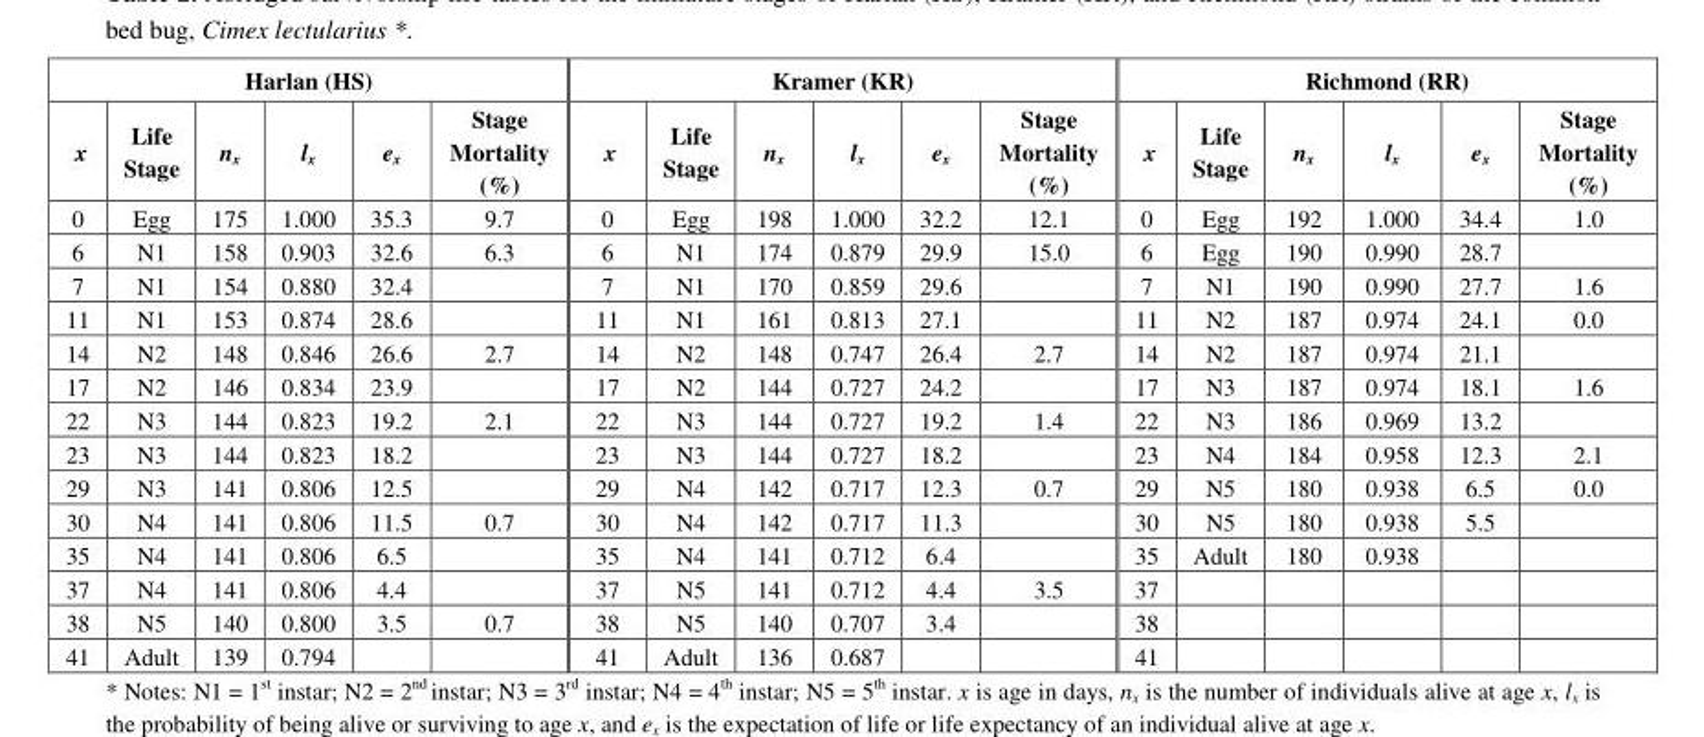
<table><thead><tr><td colspan="6">Harlan (HS)</td><td colspan="6">Kramer (KR)</td><td colspan="6">Richmond (RR)</td></tr><tr><td>x</td><td>Life Stage</td><td>n<sub>x</sub></td><td>l<sub>x</sub></td><td>e<sub>x</sub></td><td>Stage Mortality (%)</td><td>x</td><td>Life Stage</td><td>n<sub>x</sub></td><td>l<sub>x</sub></td><td>e<sub>x</sub></td><td>Stage Mortality (%)</td><td>x</td><td>Life Stage</td><td>n<sub>x</sub></td><td>l<sub>x</sub></td><td>e<sub>x</sub></td><td>Stage Mortality (%)</td></tr></thead><tbody><tr><td>0</td><td>Egg</td><td>175</td><td>1.000</td><td>35.3</td><td>9.7</td><td>0</td><td>Egg</td><td>198</td><td>1.000</td><td>32.2</td><td>12.1</td><td>0</td><td>Egg</td><td>192</td><td>1.000</td><td>34.4</td><td>1.0</td></tr><tr><td>6</td><td>N1</td><td>158</td><td>0.903</td><td>32.6</td><td>6.3</td><td>6</td><td>N1</td><td>174</td><td>0.879</td><td>29.9</td><td>15.0</td><td>6</td><td>Egg</td><td>190</td><td>0.990</td><td>28.7</td><td></td></tr><tr><td>7</td><td>N1</td><td>154</td><td>0.880</td><td>32.4</td><td></td><td>7</td><td>N1</td><td>170</td><td>0.859</td><td>29.6</td><td></td><td>7</td><td>N1</td><td>190</td><td>0.990</td><td>27.7</td><td>1.6</td></tr><tr><td>11</td><td>N1</td><td>153</td><td>0.874</td><td>28.6</td><td></td><td>11</td><td>N1</td><td>161</td><td>0.813</td><td>27.1</td><td></td><td>11</td><td>N2</td><td>187</td><td>0.974</td><td>24.1</td><td>0.0</td></tr><tr><td>14</td><td>N2</td><td>148</td><td>0.846</td><td>26.6</td><td>2.7</td><td>14</td><td>N2</td><td>148</td><td>0.747</td><td>26.4</td><td>2.7</td><td>14</td><td>N2</td><td>187</td><td>0.974</td><td>21.1</td><td></td></tr><tr><td>17</td><td>N2</td><td>146</td><td>0.834</td><td>23.9</td><td></td><td>17</td><td>N2</td><td>144</td><td>0.727</td><td>24.2</td><td></td><td>17</td><td>N3</td><td>187</td><td>0.974</td><td>18.1</td><td>1.6</td></tr><tr><td>22</td><td>N3</td><td>144</td><td>0.823</td><td>19.2</td><td>2.1</td><td>22</td><td>N3</td><td>144</td><td>0.727</td><td>19.2</td><td>1.4</td><td>22</td><td>N3</td><td>186</td><td>0.969</td><td>13.2</td><td></td></tr><tr><td>23</td><td>N3</td><td>144</td><td>0.823</td><td>18.2</td><td></td><td>23</td><td>N3</td><td>144</td><td>0.727</td><td>18.2</td><td></td><td>23</td><td>N4</td><td>184</td><td>0.958</td><td>12.3</td><td>2.1</td></tr><tr><td>29</td><td>N3</td><td>141</td><td>0.806</td><td>12.5</td><td></td><td>29</td><td>N4</td><td>142</td><td>0.717</td><td>12.3</td><td>0.7</td><td>29</td><td>N5</td><td>180</td><td>0.938</td><td>6.5</td><td>0.0</td></tr><tr><td>30</td><td>N4</td><td>141</td><td>0.806</td><td>11.5</td><td>0.7</td><td>30</td><td>N4</td><td>142</td><td>0.717</td><td>11.3</td><td></td><td>30</td><td>N5</td><td>180</td><td>0.938</td><td>5.5</td><td></td></tr><tr><td>35</td><td>N4</td><td>141</td><td>0.806</td><td>6.5</td><td></td><td>35</td><td>N4</td><td>141</td><td>0.712</td><td>6.4</td><td></td><td>35</td><td>Adult</td><td>180</td><td>0.938</td><td></td><td></td></tr><tr><td>37</td><td>N4</td><td>141</td><td>0.806</td><td>4.4</td><td></td><td>37</td><td>N5</td><td>141</td><td>0.712</td><td>4.4</td><td>3.5</td><td>37</td><td></td><td></td><td></td><td></td><td></td></tr><tr><td>38</td><td>N5</td><td>140</td><td>0.800</td><td>3.5</td><td>0.7</td><td>38</td><td>N5</td><td>140</td><td>0.707</td><td>3.4</td><td></td><td>38</td><td></td><td></td><td></td><td></td><td></td></tr><tr><td>41</td><td>Adult</td><td>139</td><td>0.794</td><td></td><td></td><td>41</td><td>Adult</td><td>136</td><td>0.687</td><td></td><td></td><td>41</td><td></td><td></td><td></td><td></td><td></td></tr></tbody></table>